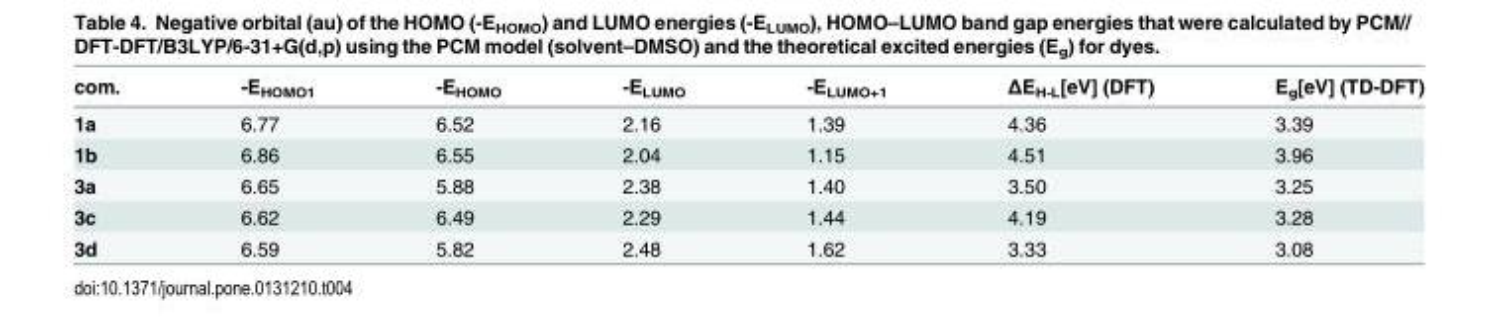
<table><thead><tr><td>com.</td><td>-E<sub>HOMO1</sub></td><td>-E<sub>HOMO</sub></td><td>-E<sub>LUMO</sub></td><td>-E<sub>LUMO+1</sub></td><td>ΔE<sub>H-L</sub>[eV] (DFT)</td><td>E<sub>g</sub>[eV] (TD-DFT)</td></tr></thead><tbody><tr><td>1a</td><td>6.77</td><td>6.52</td><td>2.16</td><td>1.39</td><td>4.36</td><td>3.39</td></tr><tr><td>1b</td><td>6.86</td><td>6.55</td><td>2.04</td><td>1.15</td><td>4.51</td><td>3.96</td></tr><tr><td>3a</td><td>6.65</td><td>5.88</td><td>2.38</td><td>1.40</td><td>3.50</td><td>3.25</td></tr><tr><td>3c</td><td>6.62</td><td>6.49</td><td>2.29</td><td>1.44</td><td>4.19</td><td>3.28</td></tr><tr><td>3d</td><td>6.59</td><td>5.82</td><td>2.48</td><td>1.62</td><td>3.33</td><td>3.08</td></tr></tbody></table>